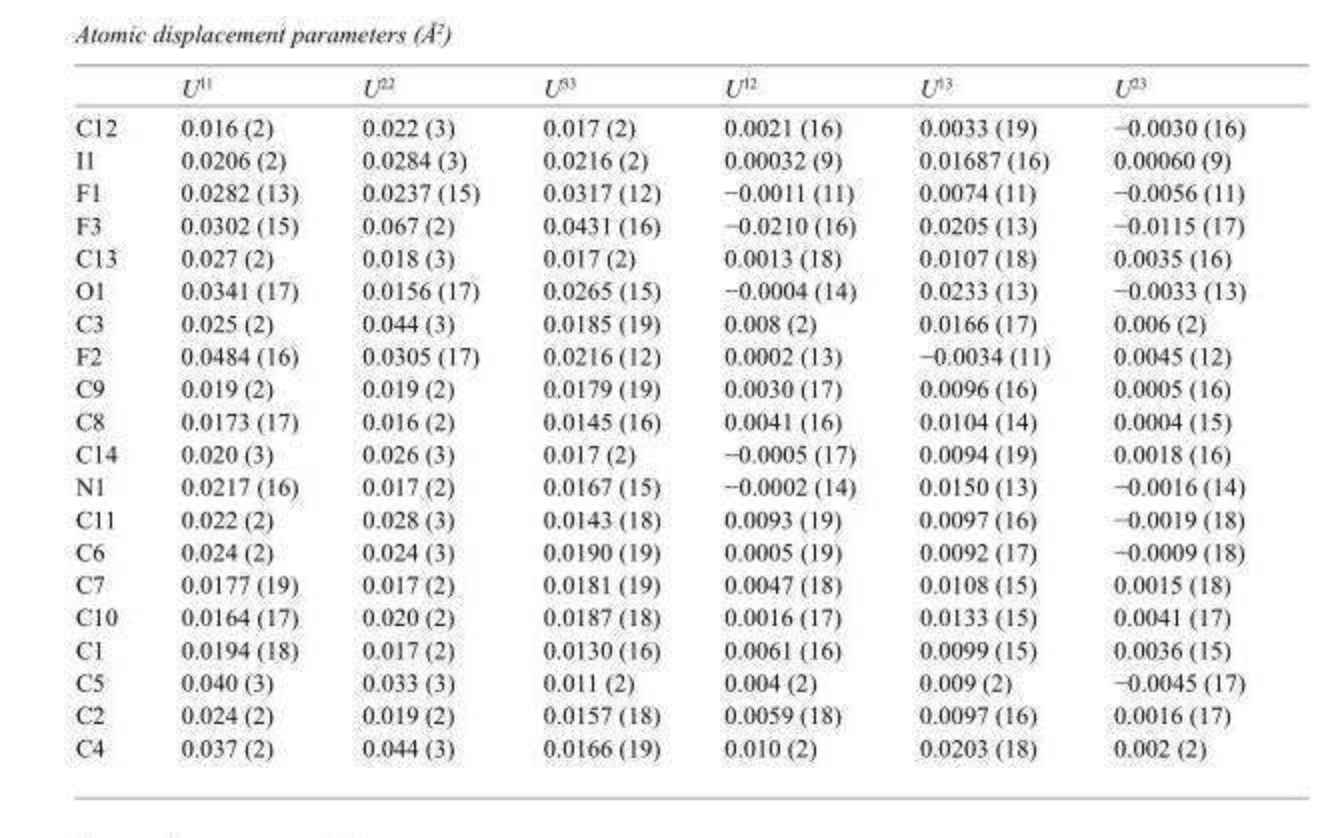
<table><thead><tr><td></td><td>U<sup>11</sup></td><td>U<sup>22</sup></td><td>U<sup>33</sup></td><td>U<sup>12</sup></td><td>U<sup>13</sup></td><td>U<sup>23</sup></td></tr></thead><tbody><tr><td>C12</td><td>0.016 (2)</td><td>0.022 (3)</td><td>0.017 (2)</td><td>0.0021 (16)</td><td>0.0033 (19)</td><td>−0.0030 (16)</td></tr><tr><td>I1</td><td>0.0206 (2)</td><td>0.0284 (3)</td><td>0.0216 (2)</td><td>0.00032 (9)</td><td>0.01687 (16)</td><td>0.00060 (9)</td></tr><tr><td>F1</td><td>0.0282 (13)</td><td>0.0237 (15)</td><td>0.0317 (12)</td><td>−0.0011 (11)</td><td>0.0074 (11)</td><td>−0.0056 (11)</td></tr><tr><td>F3</td><td>0.0302 (15)</td><td>0.067 (2)</td><td>0.0431 (16)</td><td>−0.0210 (16)</td><td>0.0205 (13)</td><td>−0.0115 (17)</td></tr><tr><td>C13</td><td>0.027 (2)</td><td>0.018 (3)</td><td>0.017 (2)</td><td>0.0013 (18)</td><td>0.0107 (18)</td><td>0.0035 (16)</td></tr><tr><td>O1</td><td>0.0341 (17)</td><td>0.0156 (17)</td><td>0.0265 (15)</td><td>−0.0004 (14)</td><td>0.0233 (13)</td><td>−0.0033 (13)</td></tr><tr><td>C3</td><td>0.025 (2)</td><td>0.044 (3)</td><td>0.0185 (19)</td><td>0.008 (2)</td><td>0.0166 (17)</td><td>0.006 (2)</td></tr><tr><td>F2</td><td>0.0484 (16)</td><td>0.0305 (17)</td><td>0.0216 (12)</td><td>0.0002 (13)</td><td>−0.0034 (11)</td><td>0.0045 (12)</td></tr><tr><td>C9</td><td>0.019 (2)</td><td>0.019 (2)</td><td>0.0179 (19)</td><td>0.0030 (17)</td><td>0.0096 (16)</td><td>0.0005 (16)</td></tr><tr><td>C8</td><td>0.0173 (17)</td><td>0.016 (2)</td><td>0.0145 (16)</td><td>0.0041 (16)</td><td>0.0104 (14)</td><td>0.0004 (15)</td></tr><tr><td>C14</td><td>0.020 (3)</td><td>0.026 (3)</td><td>0.017 (2)</td><td>−0.0005 (17)</td><td>0.0094 (19)</td><td>0.0018 (16)</td></tr><tr><td>N1</td><td>0.0217 (16)</td><td>0.017 (2)</td><td>0.0167 (15)</td><td>−0.0002 (14)</td><td>0.0150 (13)</td><td>−0.0016 (14)</td></tr><tr><td>C11</td><td>0.022 (2)</td><td>0.028 (3)</td><td>0.0143 (18)</td><td>0.0093 (19)</td><td>0.0097 (16)</td><td>−0.0019 (18)</td></tr><tr><td>C6</td><td>0.024 (2)</td><td>0.024 (3)</td><td>0.0190 (19)</td><td>0.0005 (19)</td><td>0.0092 (17)</td><td>−0.0009 (18)</td></tr><tr><td>C7</td><td>0.0177 (19)</td><td>0.017 (2)</td><td>0.0181 (19)</td><td>0.0047 (18)</td><td>0.0108 (15)</td><td>0.0015 (18)</td></tr><tr><td>C10</td><td>0.0164 (17)</td><td>0.020 (2)</td><td>0.0187 (18)</td><td>0.0016 (17)</td><td>0.0133 (15)</td><td>0.0041 (17)</td></tr><tr><td>C1</td><td>0.0194 (18)</td><td>0.017 (2)</td><td>0.0130 (16)</td><td>0.0061 (16)</td><td>0.0099 (15)</td><td>0.0036 (15)</td></tr><tr><td>C5</td><td>0.040 (3)</td><td>0.033 (3)</td><td>0.011 (2)</td><td>0.004 (2)</td><td>0.009 (2)</td><td>−0.0045 (17)</td></tr><tr><td>C2</td><td>0.024 (2)</td><td>0.019 (2)</td><td>0.0157 (18)</td><td>0.0059 (18)</td><td>0.0097 (16)</td><td>0.0016 (17)</td></tr><tr><td>C4</td><td>0.037 (2)</td><td>0.044 (3)</td><td>0.0166 (19)</td><td>0.010 (2)</td><td>0.0203 (18)</td><td>0.002 (2)</td></tr></tbody></table>